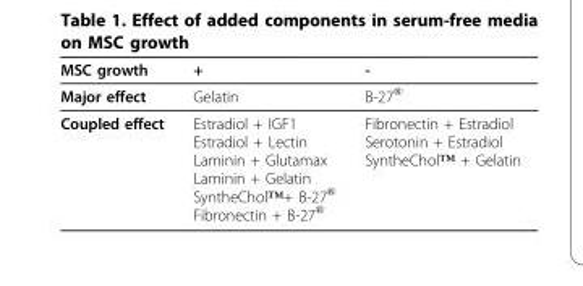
<table><thead><tr><td>MSC growth</td><td>+</td><td>-</td></tr></thead><tbody><tr><td>Major effect</td><td>Gelatin</td><td>B-27<sup>®</sup></td></tr><tr><td>Coupled effect</td><td>Estradiol + IGF1 Estradiol + Lectin Laminin + Glutamax Laminin + Gelatin SyntheChol™+ B-27<sup>®</sup> Fibronectin + B-27<sup>®</sup></td><td>Fibronectin + Estradiol Serotonin + Estradiol SyntheChol™ + Gelatin</td></tr></tbody></table>